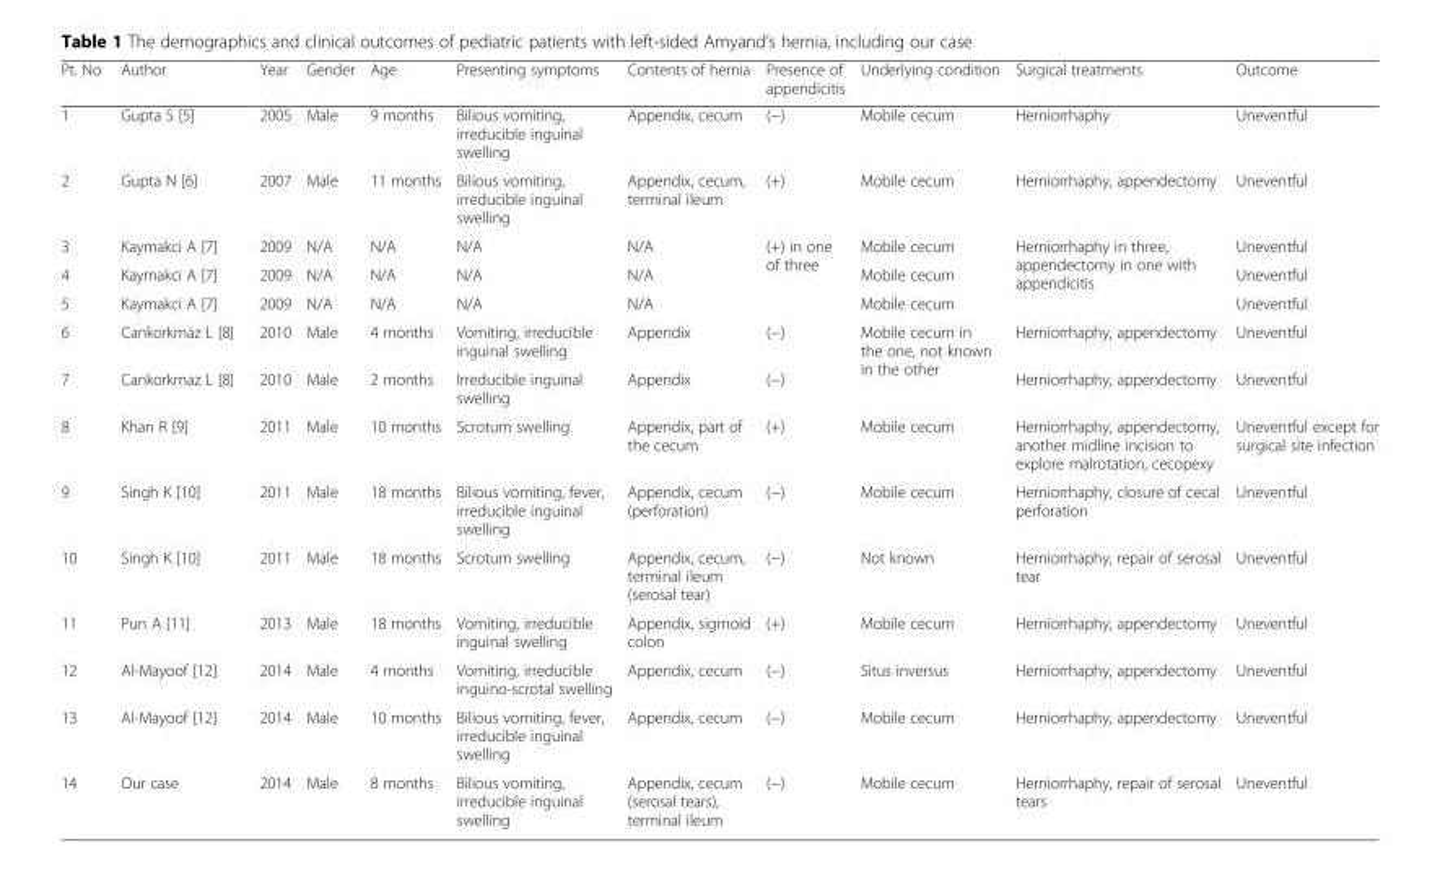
<table><thead><tr><td>Pt. No</td><td>Author</td><td>Year</td><td>Gender</td><td>Age</td><td>Presenting symptoms</td><td>Contents of hernia</td><td>Presence of appendicitis</td><td>Underlying condition</td><td>Surgical treatments</td><td>Outcome</td></tr></thead><tbody><tr><td>1</td><td>Gupta S [5]</td><td>2005</td><td>Male</td><td>9 months</td><td>Bilious vomiting, irreducible inguinal swelling</td><td>Appendix, cecum</td><td>(−)</td><td>Mobile cecum</td><td>Herniorrhaphy</td><td>Uneventful</td></tr><tr><td>2</td><td>Gupta N [6]</td><td>2007</td><td>Male</td><td>11 months</td><td>Bilious vomiting, irreducible inguinal swelling</td><td>Appendix, cecum, terminal ileum</td><td>(+)</td><td>Mobile cecum</td><td>Herniorrhaphy, appendectomy</td><td>Uneventful</td></tr><tr><td>3</td><td>Kaymakci A [7]</td><td>2009</td><td>N/A</td><td>N/A</td><td>N/A</td><td>N/A</td><td rowspan="3">(+) in one of three</td><td>Mobile cecum</td><td rowspan="3">Herniorrhaphy in three, appendectomy in one with appendicitis</td><td>Uneventful</td></tr><tr><td>4</td><td>Kaymakci A [7]</td><td>2009</td><td>N/A</td><td>N/A</td><td>N/A</td><td>N/A</td><td>Mobile cecum</td><td>Uneventful</td></tr><tr><td>5</td><td>Kaymakci A [7]</td><td>2009</td><td>N/A</td><td>N/A</td><td>N/A</td><td>N/A</td><td>Mobile cecum</td><td>Uneventful</td></tr><tr><td>6</td><td>Cankorkmaz L [8]</td><td>2010</td><td>Male</td><td>4 months</td><td>Vomiting, irreducible inguinal swelling</td><td>Appendix</td><td>(−)</td><td rowspan="2">Mobile cecum in the one, not known in the other</td><td>Herniorrhaphy, appendectomy</td><td>Uneventful</td></tr><tr><td>7</td><td>Cankorkmaz L [8]</td><td>2010</td><td>Male</td><td>2 months</td><td>Irreducible inguinal swelling</td><td>Appendix</td><td>(−)</td><td>Herniorrhaphy, appendectomy</td><td>Uneventful</td></tr><tr><td>8</td><td>Khan R [9]</td><td>2011</td><td>Male</td><td>10 months</td><td>Scrotum swelling</td><td>Appendix, part of the cecum</td><td>(+)</td><td>Mobile cecum</td><td>Herniorrhaphy, appendectomy, another midline incision to explore malrotation, cecopexy</td><td>Uneventful except for surgical site infection</td></tr><tr><td>9</td><td>Singh K [10]</td><td>2011</td><td>Male</td><td>18 months</td><td>Bilious vomiting, fever, irreducible inguinal swelling</td><td>Appendix, cecum (perforation)</td><td>(−)</td><td>Mobile cecum</td><td>Herniorrhaphy, closure of cecal perforation</td><td>Uneventful</td></tr><tr><td>10</td><td>Singh K [10]</td><td>2011</td><td>Male</td><td>18 months</td><td>Scrotum swelling</td><td>Appendix, cecum, terminal ileum (serosal tear)</td><td>(−)</td><td>Not known</td><td>Herniorrhaphy, repair of serosal tear</td><td>Uneventful</td></tr><tr><td>11</td><td>Pun A [11]</td><td>2013</td><td>Male</td><td>18 months</td><td>Vomiting, irreducible inguinal swelling</td><td>Appendix, sigmoid colon</td><td>(+)</td><td>Mobile cecum</td><td>Herniorrhaphy, appendectomy</td><td>Uneventful</td></tr><tr><td>12</td><td>Al-Mayoof [12]</td><td>2014</td><td>Male</td><td>4 months</td><td>Vomiting, irreducible inguino-scrotal swelling</td><td>Appendix, cecum</td><td>(−)</td><td>Situs inversus</td><td>Herniorrhaphy, appendectomy</td><td>Uneventful</td></tr><tr><td>13</td><td>Al-Mayoof [12]</td><td>2014</td><td>Male</td><td>10 months</td><td>Bilious vomiting, fever, irreducible inguinal swelling</td><td>Appendix, cecum</td><td>(−)</td><td>Mobile cecum</td><td>Herniorrhaphy, appendectomy</td><td>Uneventful</td></tr><tr><td>14</td><td>Our case</td><td>2014</td><td>Male</td><td>8 months</td><td>Bilious vomiting, irreducible inguinal swelling</td><td>Appendix, cecum (serosal tears), terminal ileum</td><td>(−)</td><td>Mobile cecum</td><td>Herniorrhaphy, repair of serosal tears</td><td>Uneventful</td></tr></tbody></table>